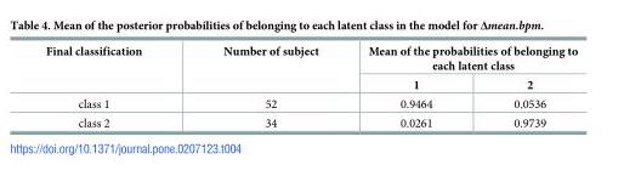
<table><thead><tr><td rowspan="2">Final classification</td><td rowspan="2">Number of subject</td><td colspan="2">Mean of the probabilities of belonging to each latent class</td></tr><tr><td>1</td><td>2</td></tr></thead><tbody><tr><td>class 1</td><td>52</td><td>0.9464</td><td>0.0536</td></tr><tr><td>class 2</td><td>34</td><td>0.0261</td><td>0.9739</td></tr></tbody></table>